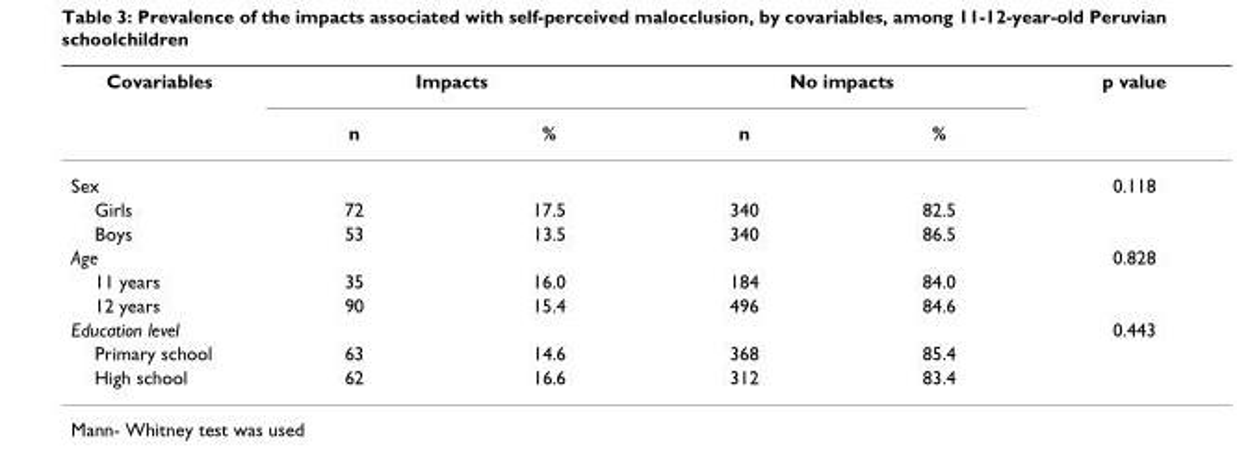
<table><thead><tr><td rowspan="2">Covariables</td><td colspan="2">Impacts</td><td colspan="2">No impacts</td><td rowspan="2">p value</td></tr><tr><td>n</td><td>%</td><td>n</td><td>%</td></tr></thead><tbody><tr><td>Sex</td><td></td><td></td><td></td><td></td><td>0.118</td></tr><tr><td>Girls</td><td>72</td><td>17.5</td><td>340</td><td>82.5</td><td></td></tr><tr><td>Boys</td><td>53</td><td>13.5</td><td>340</td><td>86.5</td><td></td></tr><tr><td>Age</td><td></td><td></td><td></td><td></td><td>0.828</td></tr><tr><td>11 years</td><td>35</td><td>16.0</td><td>184</td><td>84.0</td><td></td></tr><tr><td>12 years</td><td>90</td><td>15.4</td><td>496</td><td>84.6</td><td></td></tr><tr><td>Education level</td><td></td><td></td><td></td><td></td><td>0.443</td></tr><tr><td>Primary school</td><td>63</td><td>14.6</td><td>368</td><td>85.4</td><td></td></tr><tr><td>High school</td><td>62</td><td>16.6</td><td>312</td><td>83.4</td><td></td></tr></tbody></table>